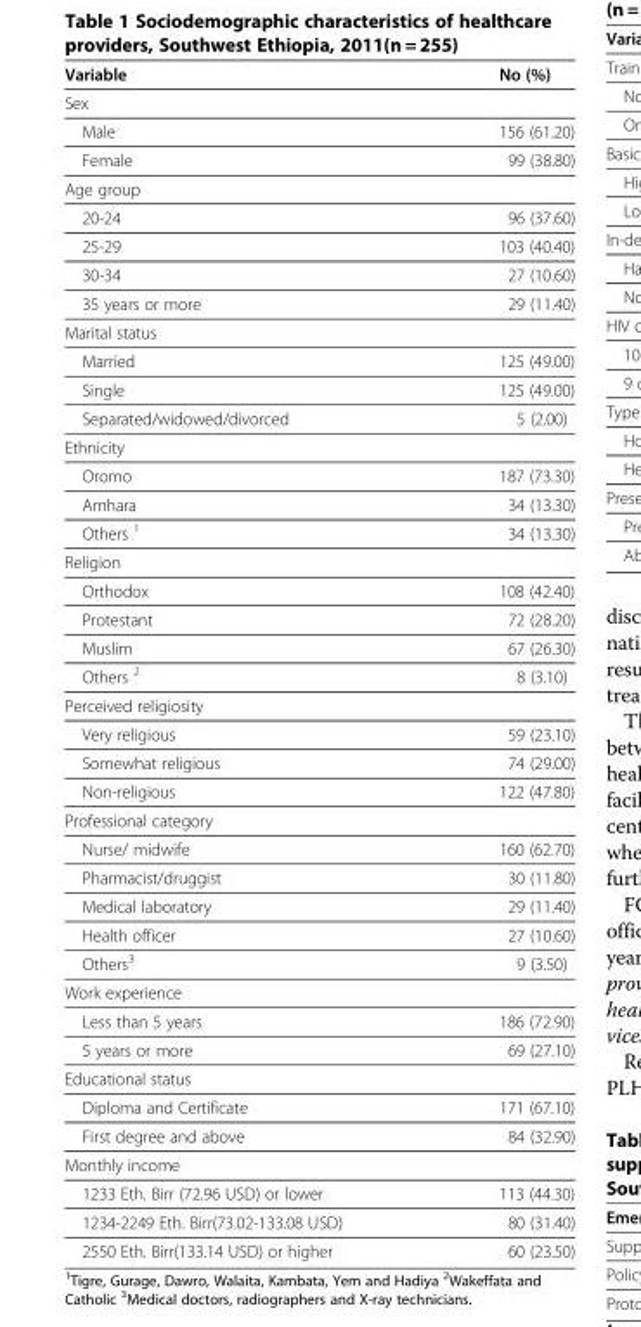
<table><thead><tr><td>Variable</td><td>No (%)</td></tr></thead><tbody><tr><td colspan="2">Sex</td></tr><tr><td>Male</td><td>156 (61.20)</td></tr><tr><td>Female</td><td>99 (38.80)</td></tr><tr><td colspan="2">Age group</td></tr><tr><td>20-24</td><td>96 (37.60)</td></tr><tr><td>25-29</td><td>103 (40.40)</td></tr><tr><td>30-34</td><td>27 (10.60)</td></tr><tr><td>35 years or more</td><td>29 (11.40)</td></tr><tr><td colspan="2">Marital status</td></tr><tr><td>Married</td><td>125 (49.00)</td></tr><tr><td>Single</td><td>125 (49.00)</td></tr><tr><td>Separated/widowed/divorced</td><td>5 (2.00)</td></tr><tr><td colspan="2">Ethnicity</td></tr><tr><td>Oromo</td><td>187 (73.30)</td></tr><tr><td>Amhara</td><td>34 (13.30)</td></tr><tr><td>Others <sup>1</sup></td><td>34 (13.30)</td></tr><tr><td colspan="2">Religion</td></tr><tr><td>Orthodox</td><td>108 (42.40)</td></tr><tr><td>Protestant</td><td>72 (28.20)</td></tr><tr><td>Muslim</td><td>67 (26.30)</td></tr><tr><td>Others <sup>2</sup></td><td>8 (3.10)</td></tr><tr><td colspan="2">Perceived religiosity</td></tr><tr><td>Very religious</td><td>59 (23.10)</td></tr><tr><td>Somewhat religious</td><td>74 (29.00)</td></tr><tr><td>Non-religious</td><td>122 (47.80)</td></tr><tr><td colspan="2">Professional category</td></tr><tr><td>Nurse/ midwife</td><td>160 (62.70)</td></tr><tr><td>Pharmacist/druggist</td><td>30 (11.80)</td></tr><tr><td>Medical laboratory</td><td>29 (11.40)</td></tr><tr><td>Health officer</td><td>27 (10.60)</td></tr><tr><td>Others<sup>3</sup></td><td>9 (3.50)</td></tr><tr><td colspan="2">Work experience</td></tr><tr><td>Less than 5 years</td><td>186 (72.90)</td></tr><tr><td>5 years or more</td><td>69 (27.10)</td></tr><tr><td colspan="2">Educational status</td></tr><tr><td>Diploma and Certificate</td><td>171 (67.10)</td></tr><tr><td>First degree and above</td><td>84 (32.90)</td></tr><tr><td colspan="2">Monthly income</td></tr><tr><td>1233 Eth. Birr (72.96 USD) or lower</td><td>113 (44.30)</td></tr><tr><td>1234-2249 Eth. Birr(73.02-133.08 USD)</td><td>80 (31.40)</td></tr><tr><td>2550 Eth. Birr(133.14 USD) or higher</td><td>60 (23.50)</td></tr></tbody></table>